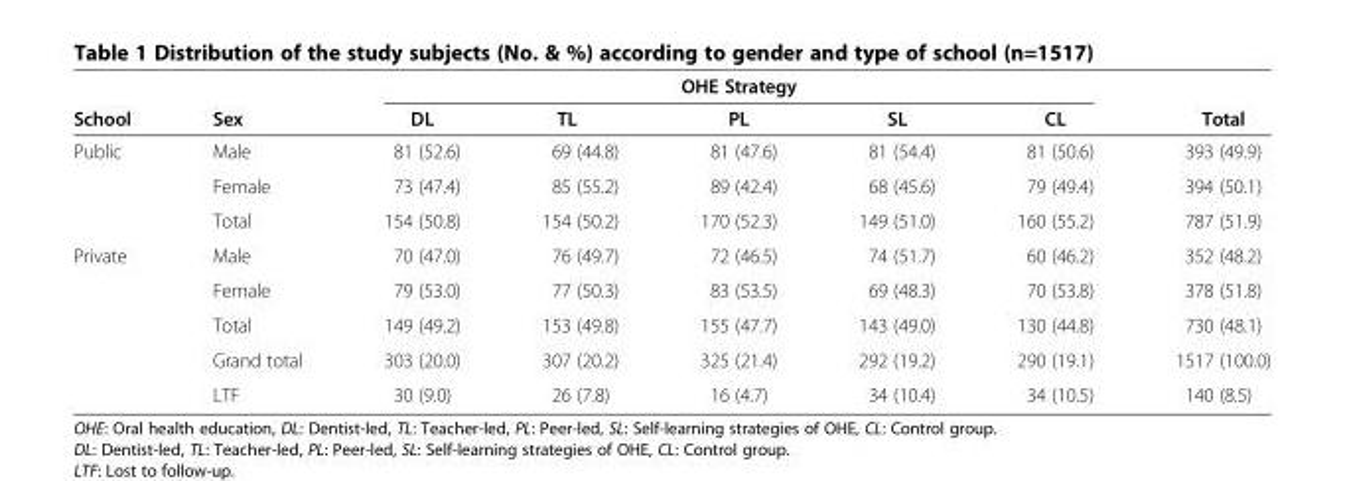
<table><thead><tr><td rowspan="2">School</td><td rowspan="2">Sex</td><td colspan="5">OHE Strategy</td><td rowspan="2">Total</td></tr><tr><td>DL</td><td>TL</td><td>PL</td><td>SL</td><td>CL</td></tr></thead><tbody><tr><td rowspan="3">Public</td><td>Male</td><td>81 (52.6)</td><td>69 (44.8)</td><td>81 (47.6)</td><td>81 (54.4)</td><td>81 (50.6)</td><td>393 (49.9)</td></tr><tr><td>Female</td><td>73 (47.4)</td><td>85 (55.2)</td><td>89 (42.4)</td><td>68 (45.6)</td><td>79 (49.4)</td><td>394 (50.1)</td></tr><tr><td>Total</td><td>154 (50.8)</td><td>154 (50.2)</td><td>170 (52.3)</td><td>149 (51.0)</td><td>160 (55.2)</td><td>787 (51.9)</td></tr><tr><td rowspan="5">Private</td><td>Male</td><td>70 (47.0)</td><td>76 (49.7)</td><td>72 (46.5)</td><td>74 (51.7)</td><td>60 (46.2)</td><td>352 (48.2)</td></tr><tr><td>Female</td><td>79 (53.0)</td><td>77 (50.3)</td><td>83 (53.5)</td><td>69 (48.3)</td><td>70 (53.8)</td><td>378 (51.8)</td></tr><tr><td>Total</td><td>149 (49.2)</td><td>153 (49.8)</td><td>155 (47.7)</td><td>143 (49.0)</td><td>130 (44.8)</td><td>730 (48.1)</td></tr><tr><td>Grand total</td><td>303 (20.0)</td><td>307 (20.2)</td><td>325 (21.4)</td><td>292 (19.2)</td><td>290 (19.1)</td><td>1517 (100.0)</td></tr><tr><td>LTF</td><td>30 (9.0)</td><td>26 (7.8)</td><td>16 (4.7)</td><td>34 (10.4)</td><td>34 (10.5)</td><td>140 (8.5)</td></tr></tbody></table>